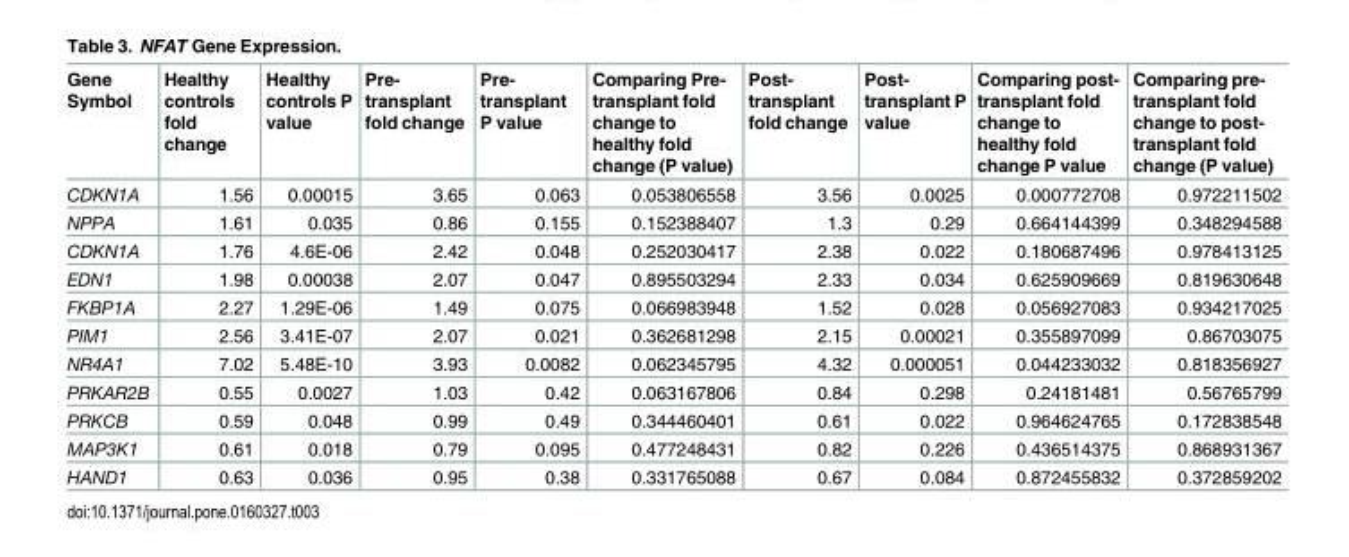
<table><thead><tr><td>Gene Symbol</td><td>Healthy controls fold change</td><td>Healthy controls P value</td><td>Pre- transplant fold change</td><td>Pre- transplant P value</td><td>Comparing Pre- transplant fold change to healthy fold change (P value)</td><td>Post- transplant fold change</td><td>Post- transplant P value</td><td>Comparing post- transplant fold change to healthy fold change P value</td><td>Comparing pre- transplant fold change to post- transplant fold change (P value)</td></tr></thead><tbody><tr><td>CDKN1A</td><td>1.56</td><td>0.00015</td><td>3.65</td><td>0.063</td><td>0.053806558</td><td>3.56</td><td>0.0025</td><td>0.000772708</td><td>0.972211502</td></tr><tr><td>NPPA</td><td>1.61</td><td>0.035</td><td>0.86</td><td>0.155</td><td>0.152388407</td><td>1.3</td><td>0.29</td><td>0.664144399</td><td>0.348294588</td></tr><tr><td>CDKN1A</td><td>1.76</td><td>4.6E-06</td><td>2.42</td><td>0.048</td><td>0.252030417</td><td>2.38</td><td>0.022</td><td>0.180687496</td><td>0.978413125</td></tr><tr><td>EDN1</td><td>1.98</td><td>0.00038</td><td>2.07</td><td>0.047</td><td>0.895503294</td><td>2.33</td><td>0.034</td><td>0.625909669</td><td>0.819630648</td></tr><tr><td>FKBP1A</td><td>2.27</td><td>1.29E-06</td><td>1.49</td><td>0.075</td><td>0.066983948</td><td>1.52</td><td>0.028</td><td>0.056927083</td><td>0.934217025</td></tr><tr><td>PIM1</td><td>2.56</td><td>3.41E-07</td><td>2.07</td><td>0.021</td><td>0.362681298</td><td>2.15</td><td>0.00021</td><td>0.355897099</td><td>0.86703075</td></tr><tr><td>NR4A1</td><td>7.02</td><td>5.48E-10</td><td>3.93</td><td>0.0082</td><td>0.062345795</td><td>4.32</td><td>0.000051</td><td>0.044233032</td><td>0.818356927</td></tr><tr><td>PRKAR2B</td><td>0.55</td><td>0.0027</td><td>1.03</td><td>0.42</td><td>0.063167806</td><td>0.84</td><td>0.298</td><td>0.24181481</td><td>0.56765799</td></tr><tr><td>PRKCB</td><td>0.59</td><td>0.048</td><td>0.99</td><td>0.49</td><td>0.344460401</td><td>0.61</td><td>0.022</td><td>0.964624765</td><td>0.172838548</td></tr><tr><td>MAP3K1</td><td>0.61</td><td>0.018</td><td>0.79</td><td>0.095</td><td>0.477248431</td><td>0.82</td><td>0.226</td><td>0.436514375</td><td>0.868931367</td></tr><tr><td>HAND1</td><td>0.63</td><td>0.036</td><td>0.95</td><td>0.38</td><td>0.331765088</td><td>0.67</td><td>0.084</td><td>0.872455832</td><td>0.372859202</td></tr></tbody></table>